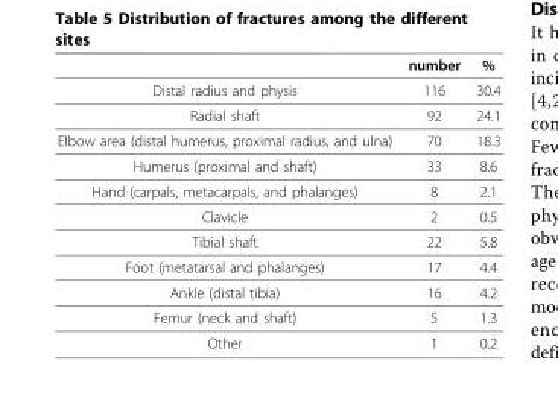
<table><thead><tr><td></td><td>number</td><td>%</td></tr></thead><tbody><tr><td>Distal radius and physis</td><td>116</td><td>30.4</td></tr><tr><td>Radial shaft</td><td>92</td><td>24.1</td></tr><tr><td>Elbow area (distal humerus, proximal radius, and ulna)</td><td>70</td><td>18.3</td></tr><tr><td>Humerus (proximal and shaft)</td><td>33</td><td>8.6</td></tr><tr><td>Hand (carpals, metacarpals, and phalanges)</td><td>8</td><td>2.1</td></tr><tr><td>Clavicle</td><td>2</td><td>0.5</td></tr><tr><td>Tibial shaft</td><td>22</td><td>5.8</td></tr><tr><td>Foot (metatarsal and phalanges)</td><td>17</td><td>4.4</td></tr><tr><td>Ankle (distal tibia)</td><td>16</td><td>4.2</td></tr><tr><td>Femur (neck and shaft)</td><td>5</td><td>1.3</td></tr><tr><td>Other</td><td>1</td><td>0.2</td></tr></tbody></table>